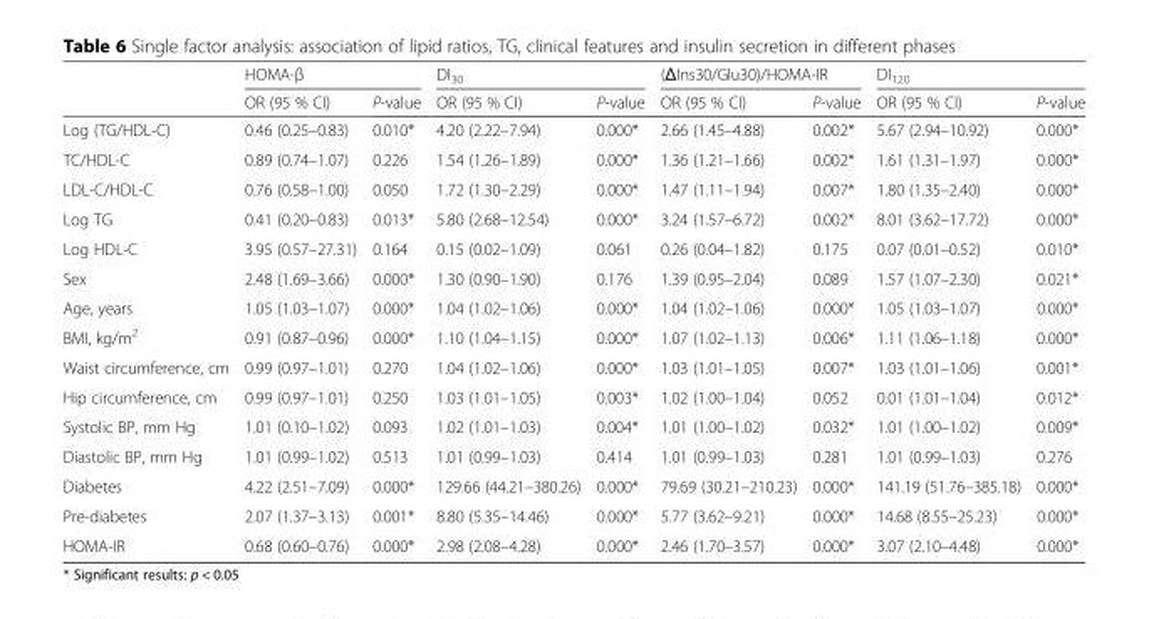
<table><thead><tr><td rowspan="2"></td><td colspan="2">HOMA-β</td><td colspan="2">DI<sub>30</sub></td><td colspan="2">(ΔIns30/Glu30)/HOMA-IR</td><td colspan="2">DI<sub>120</sub></td></tr><tr><td>OR (95 % CI)</td><td>P-value</td><td>OR (95 % CI)</td><td>P-value</td><td>OR (95 % CI)</td><td>P-value</td><td>OR (95 % CI)</td><td>P-value</td></tr></thead><tbody><tr><td>Log (TG/HDL-C)</td><td>0.46 (0.25–0.83)</td><td>0.010*</td><td>4.20 (2.22–7.94)</td><td>0.000*</td><td>2.66 (1.45–4.88)</td><td>0.002*</td><td>5.67 (2.94–10.92)</td><td>0.000*</td></tr><tr><td>TC/HDL-C</td><td>0.89 (0.74–1.07)</td><td>0.226</td><td>1.54 (1.26–1.89)</td><td>0.000*</td><td>1.36 (1.21–1.66)</td><td>0.002*</td><td>1.61 (1.31–1.97)</td><td>0.000*</td></tr><tr><td>LDL-C/HDL-C</td><td>0.76 (0.58–1.00)</td><td>0.050</td><td>1.72 (1.30–2.29)</td><td>0.000*</td><td>1.47 (1.11–1.94)</td><td>0.007*</td><td>1.80 (1.35–2.40)</td><td>0.000*</td></tr><tr><td>Log TG</td><td>0.41 (0.20–0.83)</td><td>0.013*</td><td>5.80 (2.68–12.54)</td><td>0.000*</td><td>3.24 (1.57–6.72)</td><td>0.002*</td><td>8.01 (3.62–17.72)</td><td>0.000*</td></tr><tr><td>Log HDL-C</td><td>3.95 (0.57–27.31)</td><td>0.164</td><td>0.15 (0.02–1.09)</td><td>0.061</td><td>0.26 (0.04–1.82)</td><td>0.175</td><td>0.07 (0.01–0.52)</td><td>0.010*</td></tr><tr><td>Sex</td><td>2.48 (1.69–3.66)</td><td>0.000*</td><td>1.30 (0.90–1.90)</td><td>0.176</td><td>1.39 (0.95–2.04)</td><td>0.089</td><td>1.57 (1.07–2.30)</td><td>0.021*</td></tr><tr><td>Age, years</td><td>1.05 (1.03–1.07)</td><td>0.000*</td><td>1.04 (1.02–1.06)</td><td>0.000*</td><td>1.04 (1.02–1.06)</td><td>0.000*</td><td>1.05 (1.03–1.07)</td><td>0.000*</td></tr><tr><td>BMI, kg/m<sup>2</sup></td><td>0.91 (0.87–0.96)</td><td>0.000*</td><td>1.10 (1.04–1.15)</td><td>0.000*</td><td>1.07 (1.02–1.13)</td><td>0.006*</td><td>1.11 (1.06–1.18)</td><td>0.000*</td></tr><tr><td>Waist circumference, cm</td><td>0.99 (0.97–1.01)</td><td>0.270</td><td>1.04 (1.02–1.06)</td><td>0.000*</td><td>1.03 (1.01–1.05)</td><td>0.007*</td><td>1.03 (1.01–1.06)</td><td>0.001*</td></tr><tr><td>Hip circumference, cm</td><td>0.99 (0.97–1.01)</td><td>0.250</td><td>1.03 (1.01–1.05)</td><td>0.003*</td><td>1.02 (1.00–1.04)</td><td>0.052</td><td>0.01 (1.01–1.04)</td><td>0.012*</td></tr><tr><td>Systolic BP, mm Hg</td><td>1.01 (0.10–1.02)</td><td>0.093</td><td>1.02 (1.01–1.03)</td><td>0.004*</td><td>1.01 (1.00–1.02)</td><td>0.032*</td><td>1.01 (1.00–1.02)</td><td>0.009*</td></tr><tr><td>Diastolic BP, mm Hg</td><td>1.01 (0.99–1.02)</td><td>0.513</td><td>1.01 (0.99–1.03)</td><td>0.414</td><td>1.01 (0.99–1.03)</td><td>0.281</td><td>1.01 (0.99–1.03)</td><td>0.276</td></tr><tr><td>Diabetes</td><td>4.22 (2.51–7.09)</td><td>0.000*</td><td>129.66 (44.21–380.26)</td><td>0.000*</td><td>79.69 (30.21–210.23)</td><td>0.000*</td><td>141.19 (51.76–385.18)</td><td>0.000*</td></tr><tr><td>Pre-diabetes</td><td>2.07 (1.37–3.13)</td><td>0.001*</td><td>8.80 (5.35–14.46)</td><td>0.000*</td><td>5.77 (3.62–9.21)</td><td>0.000*</td><td>14.68 (8.55–25.23)</td><td>0.000*</td></tr><tr><td>HOMA-IR</td><td>0.68 (0.60–0.76)</td><td>0.000*</td><td>2.98 (2.08–4.28)</td><td>0.000*</td><td>2.46 (1.70–3.57)</td><td>0.000*</td><td>3.07 (2.10–4.48)</td><td>0.000*</td></tr></tbody></table>